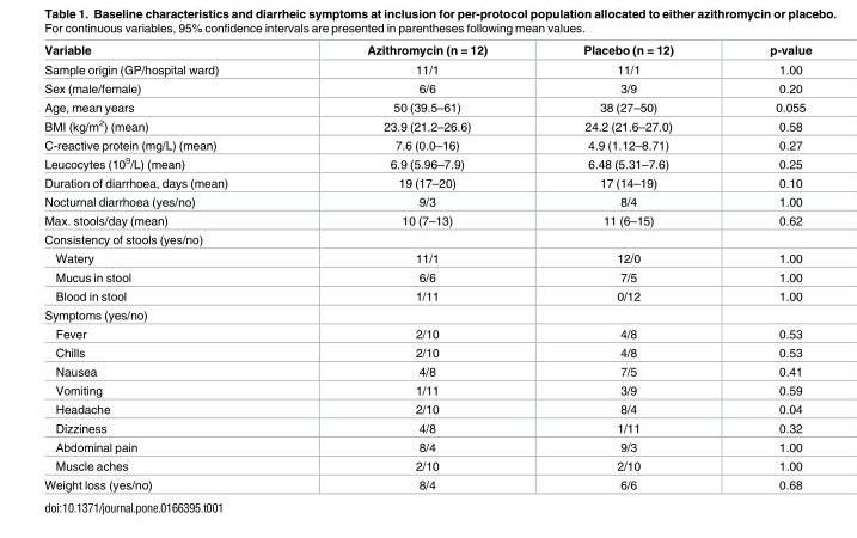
<table><thead><tr><td>Variable</td><td>Azithromycin (n = 12)</td><td>Placebo (n = 12)</td><td>p-value</td></tr></thead><tbody><tr><td>Sample origin (GP/hospital ward)</td><td>11/1</td><td>11/1</td><td>1.00</td></tr><tr><td>Sex (male/female)</td><td>6/6</td><td>3/9</td><td>0.20</td></tr><tr><td>Age, mean years</td><td>50 (39.5–61)</td><td>38 (27–50)</td><td>0.055</td></tr><tr><td>BMI (kg/m<sup>2</sup>) (mean)</td><td>23.9 (21.2–26.6)</td><td>24.2 (21.6–27.0)</td><td>0.58</td></tr><tr><td>C-reactive protein (mg/L) (mean)</td><td>7.6 (0.0–16)</td><td>4.9 (1.12–8.71)</td><td>0.27</td></tr><tr><td>Leucocytes (10<sup>9</sup>/L) (mean)</td><td>6.9 (5.96–7.9)</td><td>6.48 (5.31–7.6)</td><td>0.25</td></tr><tr><td>Duration of diarrhoea, days (mean)</td><td>19 (17–20)</td><td>17 (14–19)</td><td>0.10</td></tr><tr><td>Nocturnal diarrhoea (yes/no)</td><td>9/3</td><td>8/4</td><td>1.00</td></tr><tr><td>Max. stools/day (mean)</td><td>10 (7–13)</td><td>11 (6–15)</td><td>0.62</td></tr><tr><td colspan="4">Consistency of stools (yes/no)</td></tr><tr><td>Watery</td><td>11/1</td><td>12/0</td><td>1.00</td></tr><tr><td>Mucus in stool</td><td>6/6</td><td>7/5</td><td>1.00</td></tr><tr><td>Blood in stool</td><td>1/11</td><td>0/12</td><td>1.00</td></tr><tr><td colspan="4">Symptoms (yes/no)</td></tr><tr><td>Fever</td><td>2/10</td><td>4/8</td><td>0.53</td></tr><tr><td>Chills</td><td>2/10</td><td>4/8</td><td>0.53</td></tr><tr><td>Nausea</td><td>4/8</td><td>7/5</td><td>0.41</td></tr><tr><td>Vomiting</td><td>1/11</td><td>3/9</td><td>0.59</td></tr><tr><td>Headache</td><td>2/10</td><td>8/4</td><td>0.04</td></tr><tr><td>Dizziness</td><td>4/8</td><td>1/11</td><td>0.32</td></tr><tr><td>Abdominal pain</td><td>8/4</td><td>9/3</td><td>1.00</td></tr><tr><td>Muscle aches</td><td>2/10</td><td>2/10</td><td>1.00</td></tr><tr><td>Weight loss (yes/no)</td><td>8/4</td><td>6/6</td><td>0.68</td></tr></tbody></table>